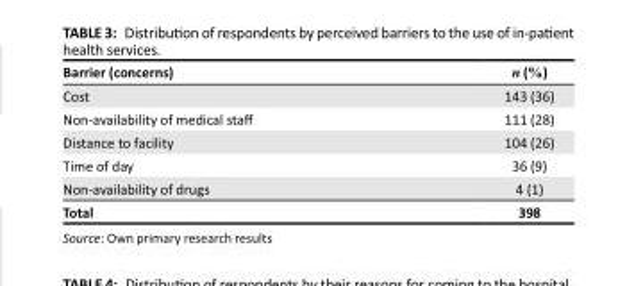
<table><thead><tr><td>Barrier (concerns)</td><td>n (%)</td></tr></thead><tbody><tr><td>Cost</td><td>143 (36)</td></tr><tr><td>Non-availability of medical staff</td><td>111 (28)</td></tr><tr><td>Distance to facility</td><td>104 (26)</td></tr><tr><td>Time of day</td><td>36 (9)</td></tr><tr><td>Non-availability of drugs</td><td>4 (1)</td></tr><tr><td>Total</td><td>398</td></tr></tbody></table>